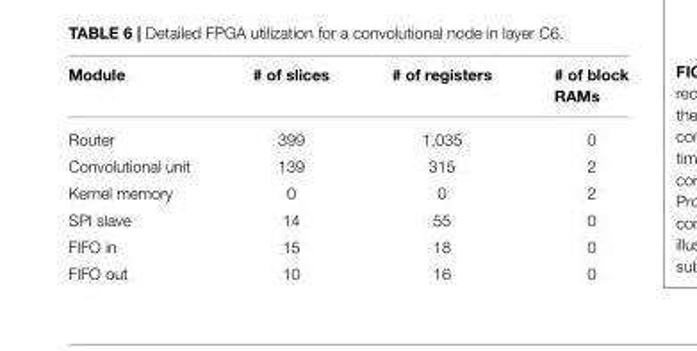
<table><thead><tr><td>Module</td><td># of slices</td><td># of registers</td><td># of block RAMs</td></tr></thead><tbody><tr><td>Router</td><td>399</td><td>1,035</td><td>0</td></tr><tr><td>Convolutional unit</td><td>139</td><td>315</td><td>2</td></tr><tr><td>Kernel memory</td><td>0</td><td>0</td><td>2</td></tr><tr><td>SPI slave</td><td>14</td><td>55</td><td>0</td></tr><tr><td>FIFO in</td><td>15</td><td>18</td><td>0</td></tr><tr><td>FIFO out</td><td>10</td><td>16</td><td>0</td></tr></tbody></table>